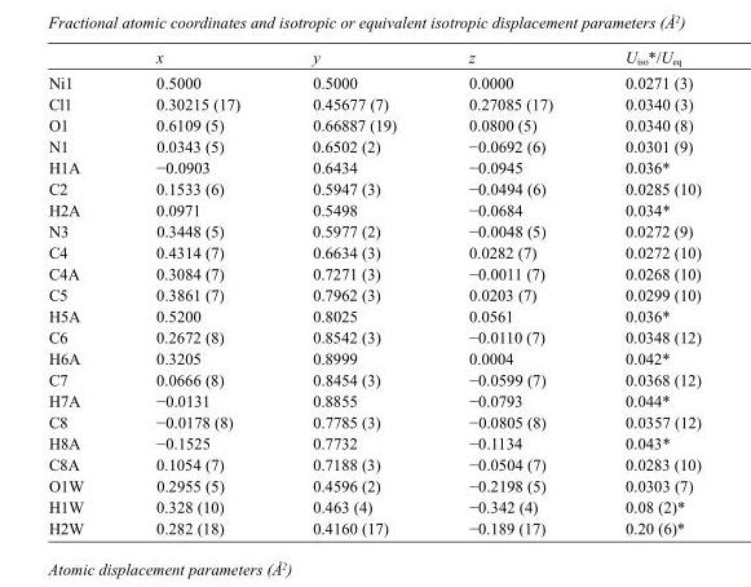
<table><thead><tr><td></td><td>x</td><td>y</td><td>z</td><td>U<sub>iso</sub>*/U<sub>eq</sub></td></tr></thead><tbody><tr><td>Ni1</td><td>0.5000</td><td>0.5000</td><td>0.0000</td><td>0.0271 (3)</td></tr><tr><td>Cl1</td><td>0.30215 (17)</td><td>0.45677 (7)</td><td>0.27085 (17)</td><td>0.0340 (3)</td></tr><tr><td>O1</td><td>0.6109 (5)</td><td>0.66887 (19)</td><td>0.0800 (5)</td><td>0.0340 (8)</td></tr><tr><td>N1</td><td>0.0343 (5)</td><td>0.6502 (2)</td><td>−0.0692 (6)</td><td>0.0301 (9)</td></tr><tr><td>H1A</td><td>−0.0903</td><td>0.6434</td><td>−0.0945</td><td>0.036*</td></tr><tr><td>C2</td><td>0.1533 (6)</td><td>0.5947 (3)</td><td>−0.0494 (6)</td><td>0.0285 (10)</td></tr><tr><td>H2A</td><td>0.0971</td><td>0.5498</td><td>−0.0684</td><td>0.034*</td></tr><tr><td>N3</td><td>0.3448 (5)</td><td>0.5977 (2)</td><td>−0.0048 (5)</td><td>0.0272 (9)</td></tr><tr><td>C4</td><td>0.4314 (7)</td><td>0.6634 (3)</td><td>0.0282 (7)</td><td>0.0272 (10)</td></tr><tr><td>C4A</td><td>0.3084 (7)</td><td>0.7271 (3)</td><td>−0.0011 (7)</td><td>0.0268 (10)</td></tr><tr><td>C5</td><td>0.3861 (7)</td><td>0.7962 (3)</td><td>0.0203 (7)</td><td>0.0299 (10)</td></tr><tr><td>H5A</td><td>0.5200</td><td>0.8025</td><td>0.0561</td><td>0.036*</td></tr><tr><td>C6</td><td>0.2672 (8)</td><td>0.8542 (3)</td><td>−0.0110 (7)</td><td>0.0348 (12)</td></tr><tr><td>H6A</td><td>0.3205</td><td>0.8999</td><td>0.0004</td><td>0.042*</td></tr><tr><td>C7</td><td>0.0666 (8)</td><td>0.8454 (3)</td><td>−0.0599 (7)</td><td>0.0368 (12)</td></tr><tr><td>H7A</td><td>−0.0131</td><td>0.8855</td><td>−0.0793</td><td>0.044*</td></tr><tr><td>C8</td><td>−0.0178 (8)</td><td>0.7785 (3)</td><td>−0.0805 (8)</td><td>0.0357 (12)</td></tr><tr><td>H8A</td><td>−0.1525</td><td>0.7732</td><td>−0.1134</td><td>0.043*</td></tr><tr><td>C8A</td><td>0.1054 (7)</td><td>0.7188 (3)</td><td>−0.0504 (7)</td><td>0.0283 (10)</td></tr><tr><td>O1W</td><td>0.2955 (5)</td><td>0.4596 (2)</td><td>−0.2198 (5)</td><td>0.0303 (7)</td></tr><tr><td>H1W</td><td>0.328 (10)</td><td>0.463 (4)</td><td>−0.342 (4)</td><td>0.08 (2)*</td></tr><tr><td>H2W</td><td>0.282 (18)</td><td>0.4160 (17)</td><td>−0.189 (17)</td><td>0.20 (6)*</td></tr></tbody></table>